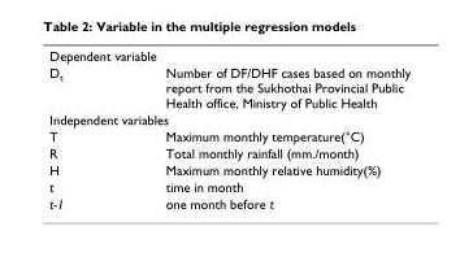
<table><tbody><tr><td colspan="2">Dependent variable</td></tr><tr><td>D<sub>t</sub></td><td>Number of DF/DHF cases based on monthly report from the Sukhothai Provincial Public Health office, Ministry of Public Health</td></tr><tr><td colspan="2">Independent variables</td></tr><tr><td>T</td><td>Maximum monthly temperature(°C)</td></tr><tr><td>R</td><td>Total monthly rainfall (mm./month)</td></tr><tr><td>H</td><td>Maximum monthly relative humidity(%)</td></tr><tr><td>t</td><td>time in month</td></tr><tr><td>t-1</td><td>one month before t</td></tr></tbody></table>